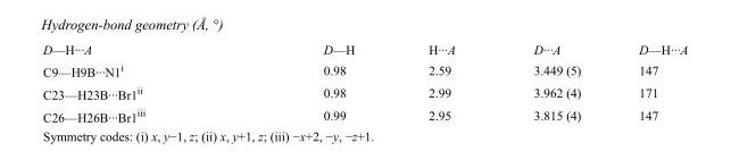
<table><tbody><tr><td>D—H···A</td><td>D—H</td><td>H···A</td><td>D···A</td><td>D—H···A</td></tr><tr><td>C9—H9B···N1<sup>i</sup></td><td>0.98</td><td>2.59</td><td>3.449 (5)</td><td>147</td></tr><tr><td>C23—H23B···Br1<sup>ii</sup></td><td>0.98</td><td>2.99</td><td>3.962 (4)</td><td>171</td></tr><tr><td>C26—H26B···Br1<sup>iii</sup></td><td>0.99</td><td>2.95</td><td>3.815 (4)</td><td>147</td></tr></tbody></table>